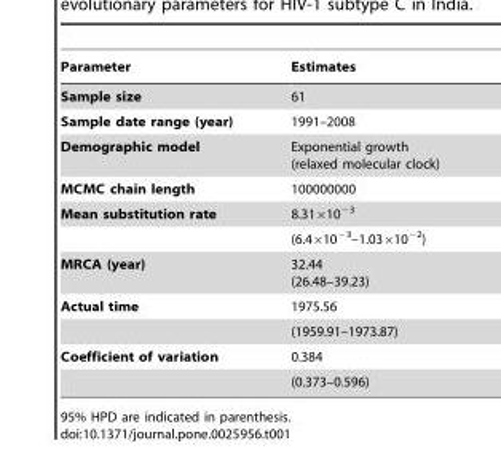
<table><thead><tr><td>Parameter</td><td>Estimates</td></tr></thead><tbody><tr><td>Sample size</td><td>61</td></tr><tr><td>Sample date range (year)</td><td>1991–2008</td></tr><tr><td>Demographic model</td><td>Exponential growth (relaxed molecular clock)</td></tr><tr><td>MCMC chain length</td><td>100000000</td></tr><tr><td rowspan="2">Mean substitution rate</td><td>8.31×10<sup>−3</sup></td></tr><tr><td>(6.4×10<sup>−3</sup>–1.03×10<sup>−2</sup>)</td></tr><tr><td>MRCA (year)</td><td>32.44 (26.48–39.23)</td></tr><tr><td rowspan="2">Actual time</td><td>1975.56</td></tr><tr><td>(1959.91–1973.87)</td></tr><tr><td rowspan="2">Coefficient of variation</td><td>0.384</td></tr><tr><td>(0.373–0.596)</td></tr></tbody></table>